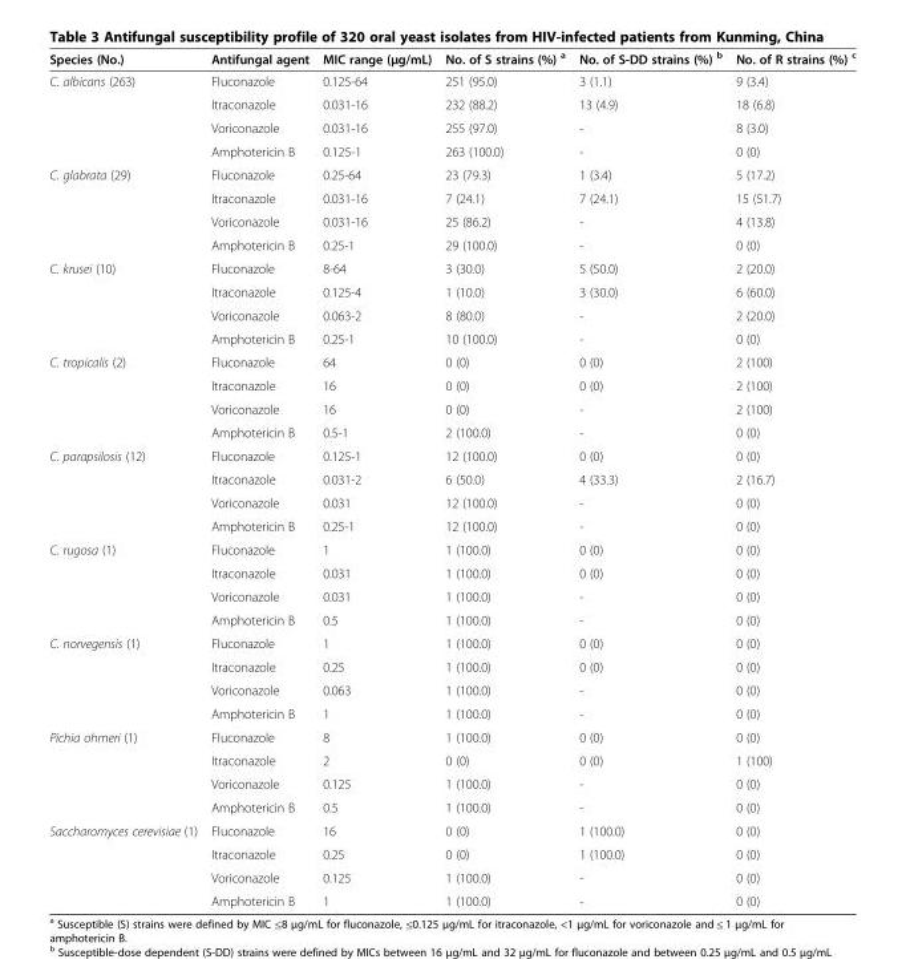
<table><thead><tr><td>Species (No.)</td><td>Antifungal agent</td><td>MIC range (μg/mL)</td><td>No. of S strains (%) <sup>a</sup></td><td>No. of S-DD strains (%) <sup>b</sup></td><td>No. of R strains (%) <sup>c</sup></td></tr></thead><tbody><tr><td rowspan="4">C. albicans (263)</td><td>Fluconazole</td><td>0.125-64</td><td>251 (95.0)</td><td>3 (1.1)</td><td>9 (3.4)</td></tr><tr><td>Itraconazole</td><td>0.031-16</td><td>232 (88.2)</td><td>13 (4.9)</td><td>18 (6.8)</td></tr><tr><td>Voriconazole</td><td>0.031-16</td><td>255 (97.0)</td><td>-</td><td>8 (3.0)</td></tr><tr><td>Amphotericin B</td><td>0.125-1</td><td>263 (100.0)</td><td>-</td><td>0 (0)</td></tr><tr><td rowspan="4">C. glabrata (29)</td><td>Fluconazole</td><td>0.25-64</td><td>23 (79.3)</td><td>1 (3.4)</td><td>5 (17.2)</td></tr><tr><td>Itraconazole</td><td>0.031-16</td><td>7 (24.1)</td><td>7 (24.1)</td><td>15 (51.7)</td></tr><tr><td>Voriconazole</td><td>0.031-16</td><td>25 (86.2)</td><td>-</td><td>4 (13.8)</td></tr><tr><td>Amphotericin B</td><td>0.25-1</td><td>29 (100.0)</td><td>-</td><td>0 (0)</td></tr><tr><td rowspan="4">C. krusei (10)</td><td>Fluconazole</td><td>8-64</td><td>3 (30.0)</td><td>5 (50.0)</td><td>2 (20.0)</td></tr><tr><td>Itraconazole</td><td>0.125-4</td><td>1 (10.0)</td><td>3 (30.0)</td><td>6 (60.0)</td></tr><tr><td>Voriconazole</td><td>0.063-2</td><td>8 (80.0)</td><td>-</td><td>2 (20.0)</td></tr><tr><td>Amphotericin B</td><td>0.25-1</td><td>10 (100.0)</td><td>-</td><td>0 (0)</td></tr><tr><td rowspan="4">C. tropicalis (2)</td><td>Fluconazole</td><td>64</td><td>0 (0)</td><td>0 (0)</td><td>2 (100)</td></tr><tr><td>Itraconazole</td><td>16</td><td>0 (0)</td><td>0 (0)</td><td>2 (100)</td></tr><tr><td>Voriconazole</td><td>16</td><td>0 (0)</td><td>-</td><td>2 (100)</td></tr><tr><td>Amphotericin B</td><td>0.5-1</td><td>2 (100.0)</td><td>-</td><td>0 (0)</td></tr><tr><td rowspan="4">C. parapsilosis (12)</td><td>Fluconazole</td><td>0.125-1</td><td>12 (100.0)</td><td>0 (0)</td><td>0 (0)</td></tr><tr><td>Itraconazole</td><td>0.031-2</td><td>6 (50.0)</td><td>4 (33.3)</td><td>2 (16.7)</td></tr><tr><td>Voriconazole</td><td>0.031</td><td>12 (100.0)</td><td>-</td><td>0 (0)</td></tr><tr><td>Amphotericin B</td><td>0.25-1</td><td>12 (100.0)</td><td>-</td><td>0 (0)</td></tr><tr><td rowspan="4">C. rugosa (1)</td><td>Fluconazole</td><td>1</td><td>1 (100.0)</td><td>0 (0)</td><td>0 (0)</td></tr><tr><td>Itraconazole</td><td>0.031</td><td>1 (100.0)</td><td>0 (0)</td><td>0 (0)</td></tr><tr><td>Voriconazole</td><td>0.031</td><td>1 (100.0)</td><td>-</td><td>0 (0)</td></tr><tr><td>Amphotericin B</td><td>0.5</td><td>1 (100.0)</td><td>-</td><td>0 (0)</td></tr><tr><td rowspan="4">C. norvegensis (1)</td><td>Fluconazole</td><td>1</td><td>1 (100.0)</td><td>0 (0)</td><td>0 (0)</td></tr><tr><td>Itraconazole</td><td>0.25</td><td>1 (100.0)</td><td>0 (0)</td><td>0 (0)</td></tr><tr><td>Voriconazole</td><td>0.063</td><td>1 (100.0)</td><td>-</td><td>0 (0)</td></tr><tr><td>Amphotericin B</td><td>1</td><td>1 (100.0)</td><td>-</td><td>0 (0)</td></tr><tr><td rowspan="4">Pichia ohmeri (1)</td><td>Fluconazole</td><td>8</td><td>1 (100.0)</td><td>0 (0)</td><td>0 (0)</td></tr><tr><td>Itraconazole</td><td>2</td><td>0 (0)</td><td>0 (0)</td><td>1 (100)</td></tr><tr><td>Voriconazole</td><td>0.125</td><td>1 (100.0)</td><td>-</td><td>0 (0)</td></tr><tr><td>Amphotericin B</td><td>0.5</td><td>1 (100.0)</td><td>-</td><td>0 (0)</td></tr><tr><td rowspan="4">Saccharomyces cerevisiae (1)</td><td>Fluconazole</td><td>16</td><td>0 (0)</td><td>1 (100.0)</td><td>0 (0)</td></tr><tr><td>Itraconazole</td><td>0.25</td><td>0 (0)</td><td>1 (100.0)</td><td>0 (0)</td></tr><tr><td>Voriconazole</td><td>0.125</td><td>1 (100.0)</td><td>-</td><td>0 (0)</td></tr><tr><td>Amphotericin B</td><td>1</td><td>1 (100.0)</td><td>-</td><td>0 (0)</td></tr></tbody></table>